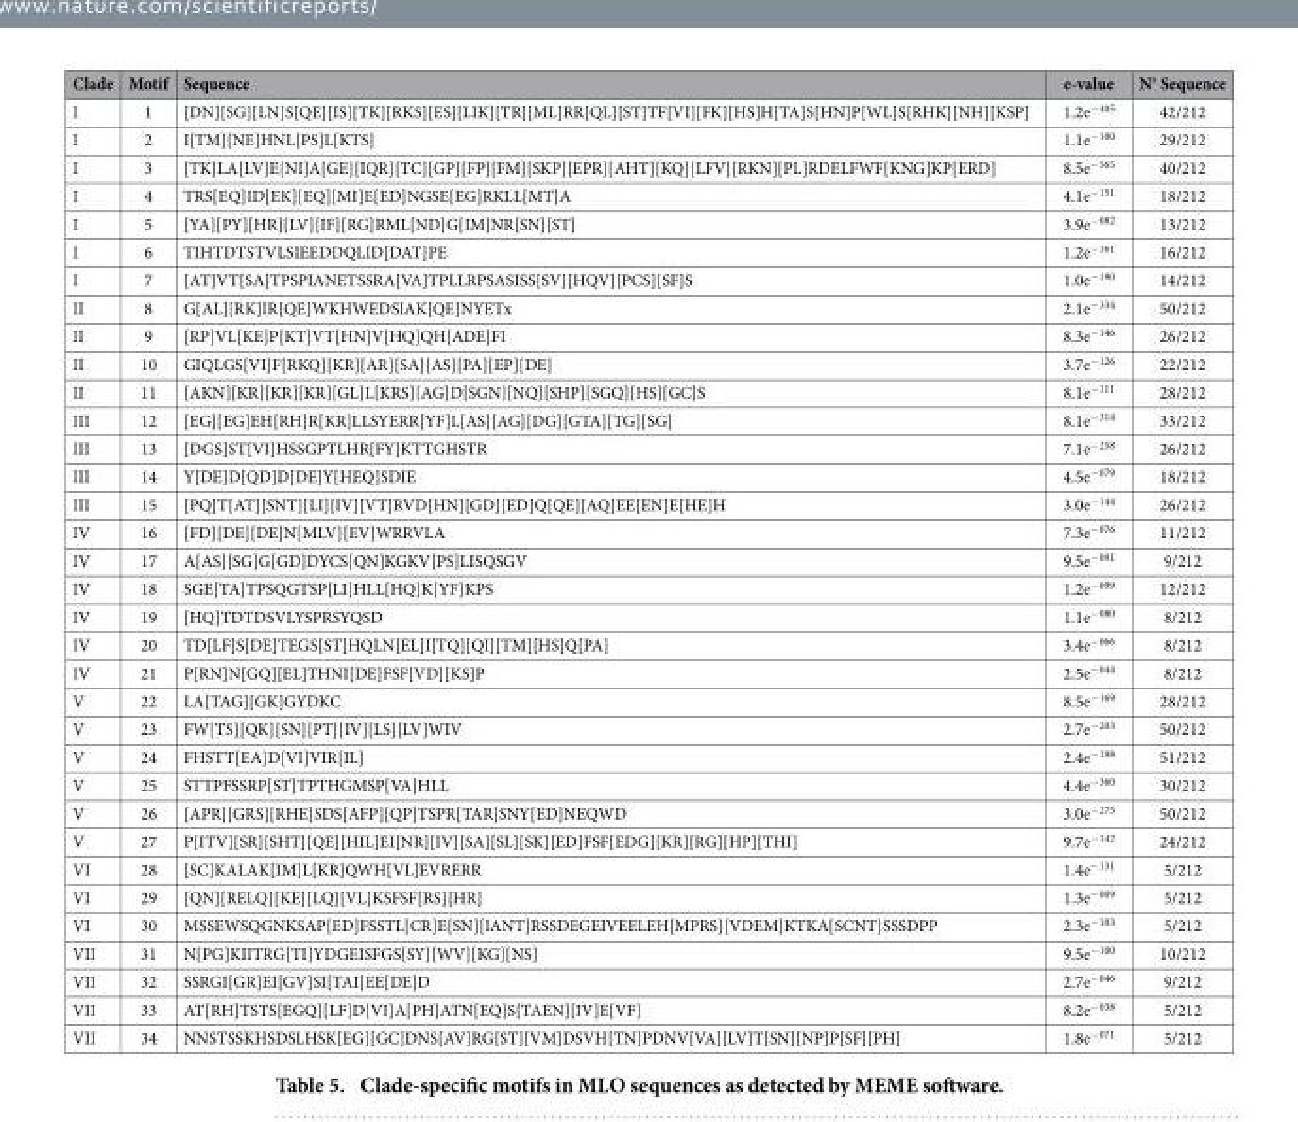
<table><thead><tr><td>Clade</td><td>Motif</td><td>Sequence</td><td>e-value</td><td>N° Sequence</td></tr></thead><tbody><tr><td>I</td><td>1</td><td>[DN][SG][LN]S[QE][IS][TK][RKS][ES][LIK][TR][ML]RR[QL][ST]TF[VI][FK][HS]H[TA]S[HN]P[WL]S[RHK][NH][KSP]</td><td>1.2e<sup>−405</sup></td><td>42/212</td></tr><tr><td>I</td><td>2</td><td>I[TM][NE]HNL[PS]L[KTS]</td><td>1.1e<sup>−100</sup></td><td>29/212</td></tr><tr><td>I</td><td>3</td><td>[TK]LA[LV]E[NI]A[GE][IQR][TC][GP][FP][FM][SKP][EPR][AHT][KQ][LFV][RKN][PL]RDELFWF[KNG]KP[ERD]</td><td>8.5e<sup>−565</sup></td><td>40/212</td></tr><tr><td>I</td><td>4</td><td>TRS[EQ]ID[EK][EQ][MI]E[ED]NGSE[EG]RKLL[MT]A</td><td>4.1e<sup>−151</sup></td><td>18/212</td></tr><tr><td>I</td><td>5</td><td>[YA][PY][HR][LV][IF][RG]RML[ND]G[IM]NR[SN][ST]</td><td>3.9e<sup>−082</sup></td><td>13/212</td></tr><tr><td>I</td><td>6</td><td>TIHTDTSTVLSIEEDDQLID[DAT]PE</td><td>1.2e<sup>−161</sup></td><td>16/212</td></tr><tr><td>I</td><td>7</td><td>[AT]VT[SA]TPSPIANETSSRA[VA]TPLLRPSASISS[SV][HQV][PCS][SF]S</td><td>1.0e<sup>−190</sup></td><td>14/212</td></tr><tr><td>II</td><td>8</td><td>G[AL][RK]IR[QE]WKHWEDSIAK[QE]NYETx</td><td>2.1e<sup>−334</sup></td><td>50/212</td></tr><tr><td>II</td><td>9</td><td>[RP]VL[KE]P[KT]VT[HN]V[HQ]QH[ADE]FI</td><td>8.3e<sup>−146</sup></td><td>26/212</td></tr><tr><td>II</td><td>10</td><td>GIQLGS[VI]F[RKQ][KR][AR][SA][AS][PA][EP][DE]</td><td>3.7e<sup>−126</sup></td><td>22/212</td></tr><tr><td>II</td><td>11</td><td>[AKN][KR][KR][KR][GL]L[KRS][AG]D[SGN][NQ][SHP][SGQ][HS][GC]S</td><td>8.1e<sup>−111</sup></td><td>28/212</td></tr><tr><td>III</td><td>12</td><td>[EG][EG]EH[RH]R[KR]LLSYERR[YF]L[AS][AG][DG][GTA][TG][SG]</td><td>8.1e<sup>−314</sup></td><td>33/212</td></tr><tr><td>III</td><td>13</td><td>[DGS]ST[VI]HSSGPTLHR[FY]KTTGHSTR</td><td>7.1e<sup>−258</sup></td><td>26/212</td></tr><tr><td>III</td><td>14</td><td>Y[DE]D[QD]D[DE]Y[HEQ]SDIE</td><td>4.5e<sup>−079</sup></td><td>18/212</td></tr><tr><td>III</td><td>15</td><td>[PQ]T[AT][SNT][LI][IV][VT]RVD[HN][GD][ED]Q[QE][AQ]EE[EN]E[HE]H</td><td>3.0e<sup>−144</sup></td><td>26/212</td></tr><tr><td>IV</td><td>16</td><td>[FD][DE][DE]N[MLV][EV]WRRVLA</td><td>7.3e<sup>−076</sup></td><td>11/212</td></tr><tr><td>IV</td><td>17</td><td>A[AS][SG]G[GD]DYCS[QN]KGKV[PS]LISQSGV</td><td>9.5e<sup>−091</sup></td><td>9/212</td></tr><tr><td>IV</td><td>18</td><td>SGE[TA]TPSQGTSP[LI]HLL[HQ]K[YF]KPS</td><td>1.2e<sup>−099</sup></td><td>12/212</td></tr><tr><td>IV</td><td>19</td><td>[HQ]TDTDSVLYSPRSYQSD</td><td>1.1e<sup>−080</sup></td><td>8/212</td></tr><tr><td>IV</td><td>20</td><td>TD[LF]S[DE]TEGS[ST]HQLN[EL]I[TQ][QI][TM][HS]Q[PA]</td><td>3.4e<sup>−066</sup></td><td>8/212</td></tr><tr><td>IV</td><td>21</td><td>P[RN]N[GQ][EL]THNI[DE]FSF[VD][KS]P</td><td>2.5e<sup>−044</sup></td><td>8/212</td></tr><tr><td>V</td><td>22</td><td>LA[TAG][GK]GYDKC</td><td>8.5e<sup>−169</sup></td><td>28/212</td></tr><tr><td>V</td><td>23</td><td>FW[TS][QK][SN][PT][IV][LS][LV]WIV</td><td>2.7e<sup>−203</sup></td><td>50/212</td></tr><tr><td>V</td><td>24</td><td>FHSTT[EA]D[VI]VIR[IL]</td><td>2.4e<sup>−198</sup></td><td>51/212</td></tr><tr><td>V</td><td>25</td><td>STTPFSSRP[ST]TPTHGMSP[VA]HLL</td><td>4.4e<sup>−360</sup></td><td>30/212</td></tr><tr><td>V</td><td>26</td><td>[APR][GRS][RHE]SDS[AFP][QP]TSPR[TAR]SNY[ED]NEQWD</td><td>3.0e<sup>−275</sup></td><td>50/212</td></tr><tr><td>V</td><td>27</td><td>P[ITV][SR][SHT][QE][HIL]EI[NR][IV][SA][SL][SK][ED]FSF[EDG][KR][RG][HP][THI]</td><td>9.7e<sup>−142</sup></td><td>24/212</td></tr><tr><td>VI</td><td>28</td><td>[SC]KALAK[IM]L[KR]QWH[VL]EVRERR</td><td>1.4e<sup>−131</sup></td><td>5/212</td></tr><tr><td>VI</td><td>29</td><td>[QN][RELQ][KE][LQ][VL]KSFSF[RS][HR]</td><td>1.3e<sup>−009</sup></td><td>5/212</td></tr><tr><td>VI</td><td>30</td><td>MSSEWSQGNKSAP[ED]FSSTL[CR]E[SN][IANT]RSSDEGEIVEELEH[MPRS][VDEM]KTKA[SCNT]SSSDPP</td><td>2.3e<sup>−103</sup></td><td>5/212</td></tr><tr><td>VII</td><td>31</td><td>N[PG]KIITRG[TI]YDGEISFGS[SY][WV][KG][NS]</td><td>9.5e<sup>−100</sup></td><td>10/212</td></tr><tr><td>VII</td><td>32</td><td>SSRGI[GR]EI[GV]SI[TAI]EE[DE]D</td><td>2.7e<sup>−046</sup></td><td>9/212</td></tr><tr><td>VII</td><td>33</td><td>AT[RH]TSTS[EGQ][LF]D[VI]A[PH]ATN[EQ]S[TAEN][IV]E[VF]</td><td>8.2e<sup>−038</sup></td><td>5/212</td></tr><tr><td>VII</td><td>34</td><td>NNSTSSKHSDSLHSK[EG][GC]DNS[AV]RG[ST][VM]DSVH[TN]PDNV[VA][LV]T[SN][NP]P[SF][PH]</td><td>1.8e<sup>−071</sup></td><td>5/212</td></tr></tbody></table>